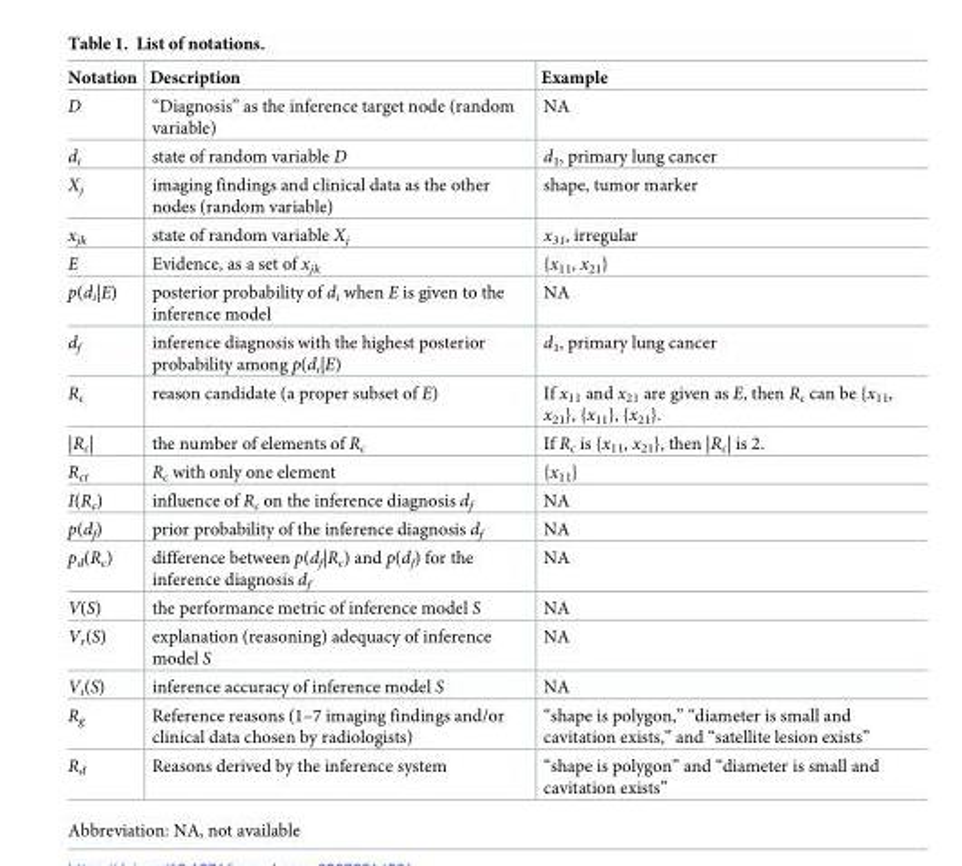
<table><thead><tr><td>Notation</td><td>Description</td><td>Example</td></tr></thead><tbody><tr><td>D</td><td>“Diagnosis” as the inference target node (random variable)</td><td>NA</td></tr><tr><td>d<sub>i</sub></td><td>state of random variable D</td><td>d<sub>1</sub>, primary lung cancer</td></tr><tr><td>X<sub>j</sub></td><td>imaging findings and clinical data as the other nodes (random variable)</td><td>shape, tumor marker</td></tr><tr><td>x<sub>jk</sub></td><td>state of random variable X<sub>j</sub></td><td>x<sub>31</sub>, irregular</td></tr><tr><td>E</td><td>Evidence, as a set of x<sub>jk</sub></td><td>{x<sub>11</sub>, x<sub>21</sub>}</td></tr><tr><td>p(d<sub>i</sub>|E)</td><td>posterior probability of d<sub>i</sub> when E is given to the inference model</td><td>NA</td></tr><tr><td>d<sub>f</sub></td><td>inference diagnosis with the highest posterior probability among p(d<sub>i</sub>|E)</td><td>d<sub>1</sub>, primary lung cancer</td></tr><tr><td>R<sub>c</sub></td><td>reason candidate (a proper subset of E)</td><td>If x<sub>11</sub> and x<sub>21</sub> are given as E, then R<sub>c</sub> can be {x<sub>11</sub>, x<sub>21</sub>}, {x<sub>11</sub>}, {x<sub>21</sub>}.</td></tr><tr><td>|R<sub>c</sub>|</td><td>the number of elements of R<sub>c</sub></td><td>If R<sub>c</sub> is {x<sub>11</sub>, x<sub>21</sub>}, then |R<sub>c</sub>| is 2.</td></tr><tr><td>R<sub>ct</sub></td><td>R<sub>c</sub> with only one element</td><td>{x<sub>11</sub>}</td></tr><tr><td>I(R<sub>c</sub>)</td><td>influence of R<sub>c</sub> on the inference diagnosis d<sub>f</sub></td><td>NA</td></tr><tr><td>p(d<sub>f</sub>)</td><td>prior probability of the inference diagnosis d<sub>f</sub></td><td>NA</td></tr><tr><td>p<sub>d</sub>(R<sub>c</sub>)</td><td>difference between p(d<sub>f</sub>|R<sub>c</sub>) and p(d<sub>f</sub>) for the inference diagnosis d<sub>f</sub></td><td>NA</td></tr><tr><td>V(S)</td><td>the performance metric of inference model S</td><td>NA</td></tr><tr><td>V<sub>r</sub>(S)</td><td>explanation (reasoning) adequacy of inference model S</td><td>NA</td></tr><tr><td>V<sub>i</sub>(S)</td><td>inference accuracy of inference model S</td><td>NA</td></tr><tr><td>R<sub>g</sub></td><td>Reference reasons (1–7 imaging findings and/or clinical data chosen by radiologists)</td><td>“shape is polygon,” “diameter is small and cavitation exists,” and “satellite lesion exists”</td></tr><tr><td>R<sub>d</sub></td><td>Reasons derived by the inference system</td><td>“shape is polygon” and “diameter is small and cavitation exists”</td></tr></tbody></table>